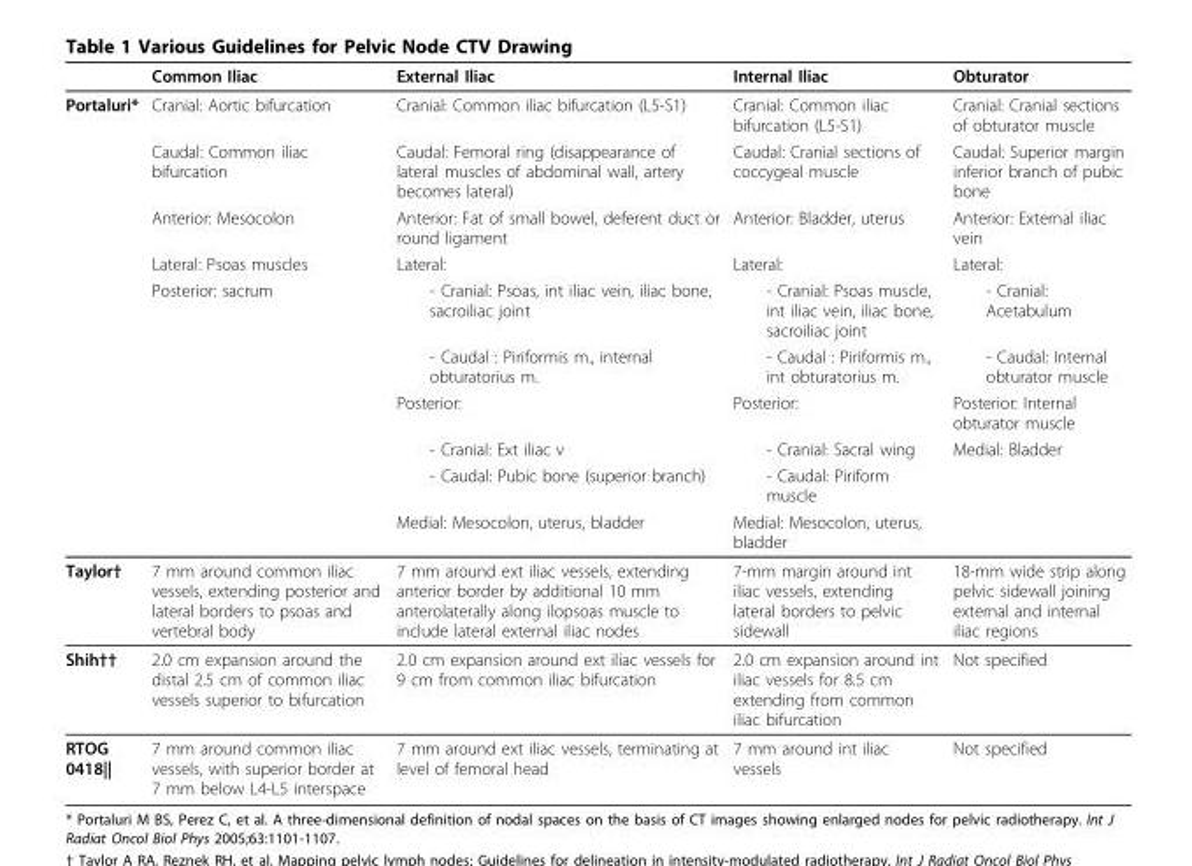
<table><thead><tr><td></td><td>Common Iliac</td><td>External Iliac</td><td>Internal Iliac</td><td>Obturator</td></tr></thead><tbody><tr><td rowspan="10">Portaluri*</td><td>Cranial: Aortic bifurcation</td><td>Cranial: Common iliac bifurcation (L5-S1)</td><td>Cranial: Common iliac bifurcation (L5-S1)</td><td>Cranial: Cranial sections of obturator muscle</td></tr><tr><td>Caudal: Common iliac bifurcation</td><td>Caudal: Femoral ring (disappearance of lateral muscles of abdominal wall, artery becomes lateral)</td><td>Caudal: Cranial sections of coccygeal muscle</td><td>Caudal: Superior margin inferior branch of pubic bone</td></tr><tr><td>Anterior: Mesocolon</td><td>Anterior: Fat of small bowel, deferent duct or round ligament</td><td>Anterior: Bladder, uterus</td><td>Anterior: External iliac vein</td></tr><tr><td>Lateral: Psoas muscles</td><td>Lateral:</td><td>Lateral:</td><td>Lateral:</td></tr><tr><td>Posterior: sacrum</td><td>- Cranial: Psoas, int iliac vein, iliac bone, sacroiliac joint</td><td>- Cranial: Psoas muscle, int iliac vein, iliac bone, sacroiliac joint</td><td>- Cranial: Acetabulum</td></tr><tr><td></td><td>- Caudal : Piriformis m., internal obturatorius m.</td><td>- Caudal : Piriformis m., int obturatorius m.</td><td>- Caudal: Internal obturator muscle</td></tr><tr><td></td><td>Posterior:</td><td>Posterior:</td><td>Posterior: Internal obturator muscle</td></tr><tr><td></td><td>- Cranial: Ext iliac v</td><td>- Cranial: Sacral wing</td><td>Medial: Bladder</td></tr><tr><td></td><td>- Caudal: Pubic bone (superior branch)</td><td>- Caudal: Piriform muscle</td><td></td></tr><tr><td></td><td>Medial: Mesocolon, uterus, bladder</td><td>Medial: Mesocolon, uterus, bladder</td><td></td></tr><tr><td>Taylor†</td><td>7 mm around common iliac vessels, extending posterior and lateral borders to psoas and vertebral body</td><td>7 mm around ext iliac vessels, extending anterior border by additional 10 mm anterolaterally along ilopsoas muscle to include lateral external iliac nodes</td><td>7-mm margin around int iliac vessels, extending lateral borders to pelvic sidewall</td><td>18-mm wide strip along pelvic sidewall joining external and internal iliac regions</td></tr><tr><td>Shih††</td><td>2.0 cm expansion around the distal 2.5 cm of common iliac vessels superior to bifurcation</td><td>2.0 cm expansion around ext iliac vessels for 9 cm from common iliac bifurcation</td><td>2.0 cm expansion around int iliac vessels for 8.5 cm extending from common iliac bifurcation</td><td>Not specified</td></tr><tr><td>RTOG 0418||</td><td>7 mm around common iliac vessels, with superior border at 7 mm below L4-L5 interspace</td><td>7 mm around ext iliac vessels, terminating at level of femoral head</td><td>7 mm around int iliac vessels</td><td>Not specified</td></tr></tbody></table>